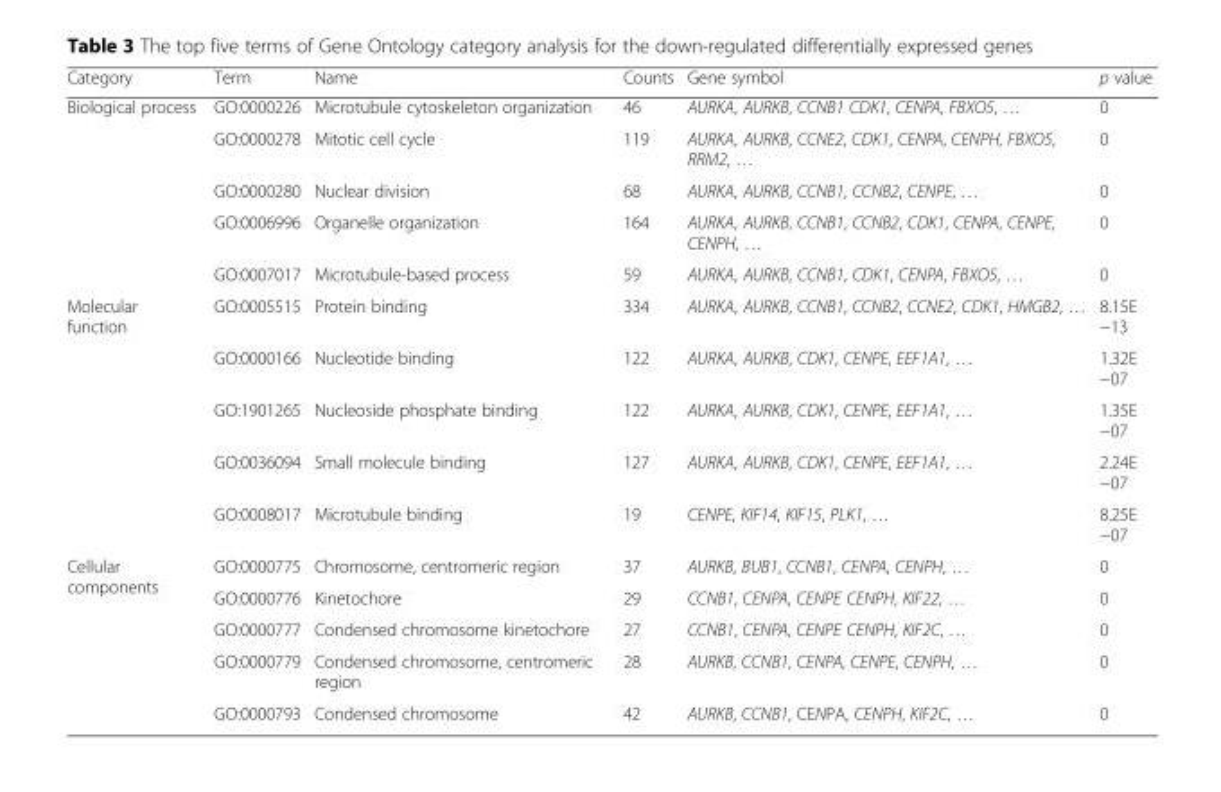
<table><thead><tr><td>Category</td><td>Term</td><td>Name</td><td>Counts</td><td>Gene symbol</td><td>p value</td></tr></thead><tbody><tr><td rowspan="5">Biological process</td><td>GO:0000226</td><td>Microtubule cytoskeleton organization</td><td>46</td><td>AURKA, AURKB, CCNB1 CDK1, CENPA, FBXO5, …</td><td>0</td></tr><tr><td>GO:0000278</td><td>Mitotic cell cycle</td><td>119</td><td>AURKA, AURKB, CCNE2, CDK1, CENPA, CENPH, FBXO5, RRM2, …</td><td>0</td></tr><tr><td>GO:0000280</td><td>Nuclear division</td><td>68</td><td>AURKA, AURKB, CCNB1, CCNB2, CENPE, …</td><td>0</td></tr><tr><td>GO:0006996</td><td>Organelle organization</td><td>164</td><td>AURKA, AURKB, CCNB1, CCNB2, CDK1, CENPA, CENPE, CENPH, …</td><td>0</td></tr><tr><td>GO:0007017</td><td>Microtubule-based process</td><td>59</td><td>AURKA, AURKB, CCNB1, CDK1, CENPA, FBXO5, …</td><td>0</td></tr><tr><td rowspan="5">Molecular function</td><td>GO:0005515</td><td>Protein binding</td><td>334</td><td>AURKA, AURKB, CCNB1, CCNB2, CCNE2, CDK1, HMGB2, …</td><td>8.15E −13</td></tr><tr><td>GO:0000166</td><td>Nucleotide binding</td><td>122</td><td>AURKA, AURKB, CDK1, CENPE, EEF1A1, …</td><td>1.32E −07</td></tr><tr><td>GO:1901265</td><td>Nucleoside phosphate binding</td><td>122</td><td>AURKA, AURKB, CDK1, CENPE, EEF1A1, …</td><td>1.35E −07</td></tr><tr><td>GO:0036094</td><td>Small molecule binding</td><td>127</td><td>AURKA, AURKB, CDK1, CENPE, EEF1A1, …</td><td>2.24E −07</td></tr><tr><td>GO:0008017</td><td>Microtubule binding</td><td>19</td><td>CENPE, KIF14, KIF15, PLK1, …</td><td>8.25E −07</td></tr><tr><td rowspan="5">Cellular components</td><td>GO:0000775</td><td>Chromosome, centromeric region</td><td>37</td><td>AURKB, BUB1, CCNB1, CENPA, CENPH, …</td><td>0</td></tr><tr><td>GO:0000776</td><td>Kinetochore</td><td>29</td><td>CCNB1, CENPA, CENPE CENPH, KIF22, …</td><td>0</td></tr><tr><td>GO:0000777</td><td>Condensed chromosome kinetochore</td><td>27</td><td>CCNB1, CENPA, CENPE CENPH, KIF2C, …</td><td>0</td></tr><tr><td>GO:0000779</td><td>Condensed chromosome, centromeric region</td><td>28</td><td>AURKB, CCNB1, CENPA, CENPE, CENPH, …</td><td>0</td></tr><tr><td>GO:0000793</td><td>Condensed chromosome</td><td>42</td><td>AURKB, CCNB1, CENPA, CENPH, KIF2C, …</td><td>0</td></tr></tbody></table>